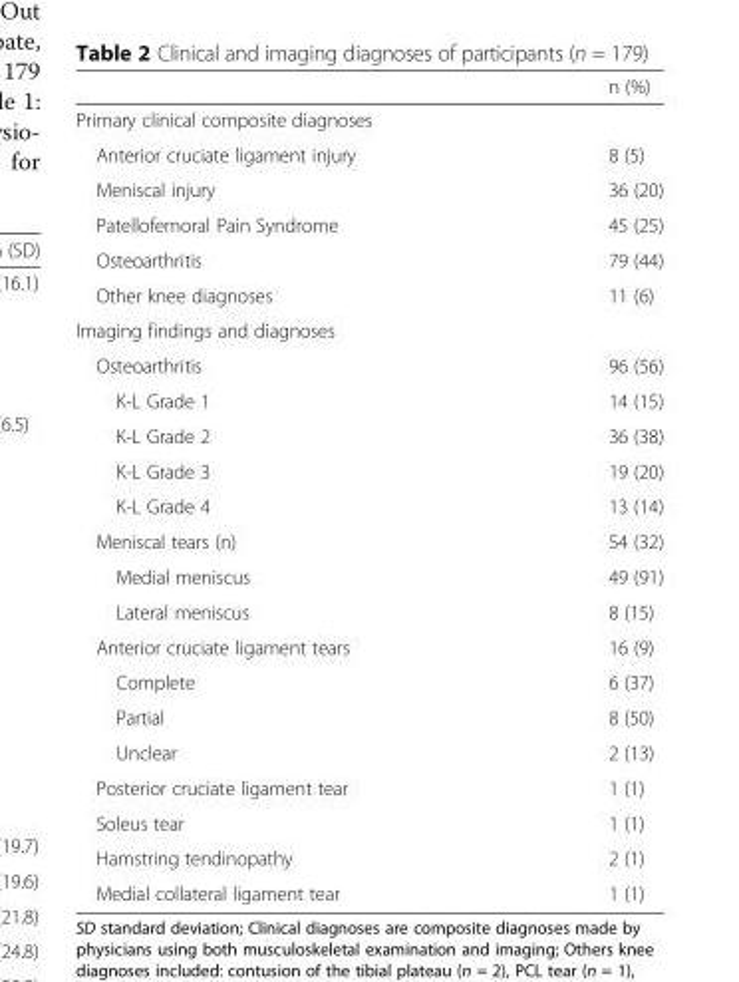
<table><thead><tr><td></td><td>n (%)</td></tr></thead><tbody><tr><td colspan="2">Primary clinical composite diagnoses</td></tr><tr><td>Anterior cruciate ligament injury</td><td>8 (5)</td></tr><tr><td>Meniscal injury</td><td>36 (20)</td></tr><tr><td>Patellofemoral Pain Syndrome</td><td>45 (25)</td></tr><tr><td>Osteoarthritis</td><td>79 (44)</td></tr><tr><td>Other knee diagnoses</td><td>11 (6)</td></tr><tr><td colspan="2">Imaging findings and diagnoses</td></tr><tr><td>Osteoarthritis</td><td>96 (56)</td></tr><tr><td>K-L Grade 1</td><td>14 (15)</td></tr><tr><td>K-L Grade 2</td><td>36 (38)</td></tr><tr><td>K-L Grade 3</td><td>19 (20)</td></tr><tr><td>K-L Grade 4</td><td>13 (14)</td></tr><tr><td>Meniscal tears (n)</td><td>54 (32)</td></tr><tr><td>Medial meniscus</td><td>49 (91)</td></tr><tr><td>Lateral meniscus</td><td>8 (15)</td></tr><tr><td>Anterior cruciate ligament tears</td><td>16 (9)</td></tr><tr><td>Complete</td><td>6 (37)</td></tr><tr><td>Partial</td><td>8 (50)</td></tr><tr><td>Unclear</td><td>2 (13)</td></tr><tr><td>Posterior cruciate ligament tear</td><td>1 (1)</td></tr><tr><td>Soleus tear</td><td>1 (1)</td></tr><tr><td>Hamstring tendinopathy</td><td>2 (1)</td></tr><tr><td>Medial collateral ligament tear</td><td>1 (1)</td></tr></tbody></table>